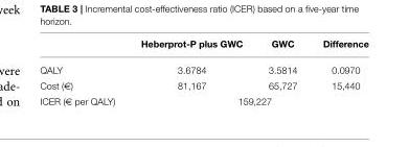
<table><thead><tr><td></td><td>Heberprot-P plus GWC</td><td>GWC</td><td>Difference</td></tr></thead><tbody><tr><td>QALY</td><td>3.6784</td><td>3.5814</td><td>0.0970</td></tr><tr><td>Cost (€)</td><td>81,167</td><td>65,727</td><td>15,440</td></tr><tr><td>ICER (€ per QALY)</td><td colspan="3">159,227</td></tr></tbody></table>